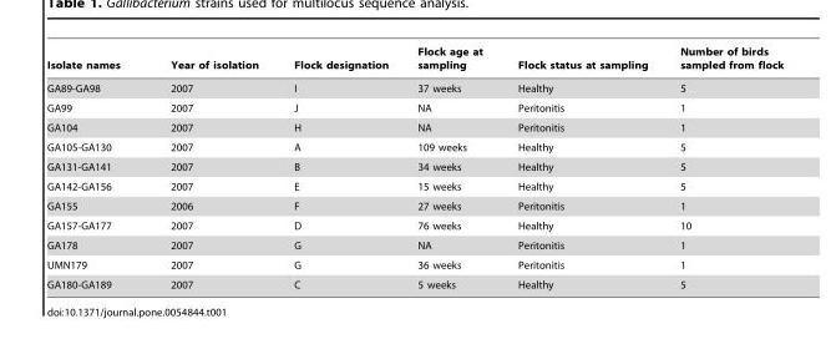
<table><thead><tr><td>Isolate names</td><td>Year of isolation</td><td>Flock designation</td><td>Flock age at sampling</td><td>Flock status at sampling</td><td>Number of birds sampled from flock</td></tr></thead><tbody><tr><td>GA89-GA98</td><td>2007</td><td>I</td><td>37 weeks</td><td>Healthy</td><td>5</td></tr><tr><td>GA99</td><td>2007</td><td>J</td><td>NA</td><td>Peritonitis</td><td>1</td></tr><tr><td>GA104</td><td>2007</td><td>H</td><td>NA</td><td>Peritonitis</td><td>1</td></tr><tr><td>GA105-GA130</td><td>2007</td><td>A</td><td>109 weeks</td><td>Healthy</td><td>5</td></tr><tr><td>GA131-GA141</td><td>2007</td><td>B</td><td>34 weeks</td><td>Healthy</td><td>5</td></tr><tr><td>GA142-GA156</td><td>2007</td><td>E</td><td>15 weeks</td><td>Healthy</td><td>5</td></tr><tr><td>GA155</td><td>2006</td><td>F</td><td>27 weeks</td><td>Peritonitis</td><td>1</td></tr><tr><td>GA157-GA177</td><td>2007</td><td>D</td><td>76 weeks</td><td>Healthy</td><td>10</td></tr><tr><td>GA178</td><td>2007</td><td>G</td><td>NA</td><td>Peritonitis</td><td>1</td></tr><tr><td>UMN179</td><td>2007</td><td>G</td><td>36 weeks</td><td>Peritonitis</td><td>1</td></tr><tr><td>GA180-GA189</td><td>2007</td><td>C</td><td>5 weeks</td><td>Healthy</td><td>5</td></tr></tbody></table>